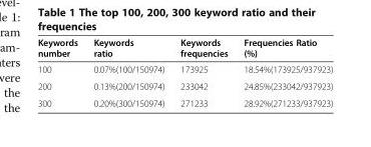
<table><thead><tr><td>Keywords number</td><td>Keywords ratio</td><td>Keywords frequencies</td><td>Frequencies Ratio (%)</td></tr></thead><tbody><tr><td>100</td><td>0.07%(100/150974)</td><td>173925</td><td>18.54%(173925/937923)</td></tr><tr><td>200</td><td>0.13%(200/150974)</td><td>233042</td><td>24.85%(233042/937923)</td></tr><tr><td>300</td><td>0.20%(300/150974)</td><td>271233</td><td>28.92%(271233/937923)</td></tr></tbody></table>